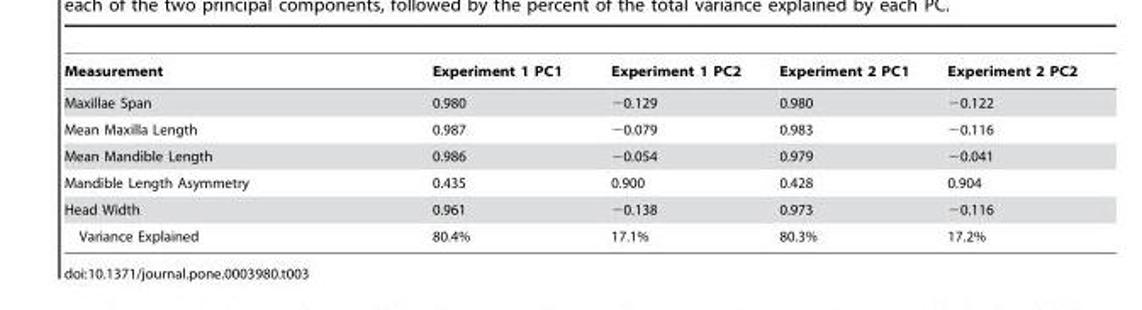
<table><thead><tr><td>Measurement</td><td>Experiment 1 PC1</td><td>Experiment 1 PC2</td><td>Experiment 2 PC1</td><td>Experiment 2 PC2</td></tr></thead><tbody><tr><td>Maxillae Span</td><td>0.980</td><td>−0.129</td><td>0.980</td><td>−0.122</td></tr><tr><td>Mean Maxilla Length</td><td>0.987</td><td>−0.079</td><td>0.983</td><td>−0.116</td></tr><tr><td>Mean Mandible Length</td><td>0.986</td><td>−0.054</td><td>0.979</td><td>−0.041</td></tr><tr><td>Mandible Length Asymmetry</td><td>0.435</td><td>0.900</td><td>0.428</td><td>0.904</td></tr><tr><td>Head Width</td><td>0.961</td><td>−0.138</td><td>0.973</td><td>−0.116</td></tr><tr><td>Variance Explained</td><td>80.4%</td><td>17.1%</td><td>80.3%</td><td>17.2%</td></tr></tbody></table>